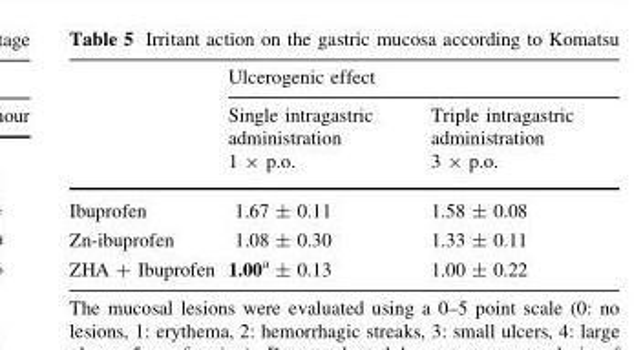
<table><thead><tr><td rowspan="2"></td><td colspan="2">Ulcerogenic effect</td></tr><tr><td>Single intragastric administration 1 × p.o.</td><td>Triple intragastric administration 3 × p.o.</td></tr></thead><tbody><tr><td>Ibuprofen</td><td>1.67 ± 0.11</td><td>1.58 ± 0.08</td></tr><tr><td>Zn-ibuprofen</td><td>1.08 ± 0.30</td><td>1.33 ± 0.11</td></tr><tr><td>ZHA + Ibuprofen</td><td>1.00<sup>a</sup> ± 0.13</td><td>1.00 ± 0.22</td></tr></tbody></table>